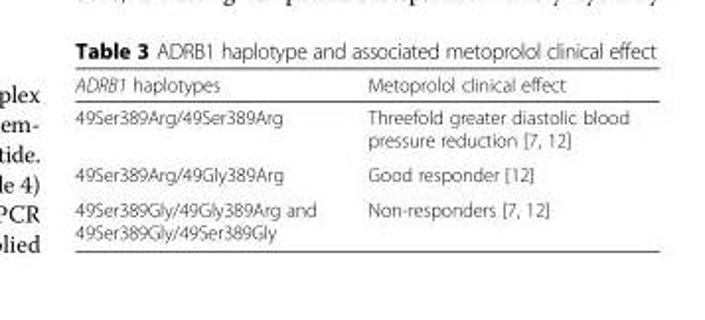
<table><thead><tr><td>ADRB1 haplotypes</td><td>Metoprolol clinical effect</td></tr></thead><tbody><tr><td>49Ser389Arg/49Ser389Arg</td><td>Threefold greater diastolic blood pressure reduction [7, 12]</td></tr><tr><td>49Ser389Arg/49Gly389Arg</td><td>Good responder [12]</td></tr><tr><td>49Ser389Gly/49Gly389Arg and 49Ser389Gly/49Ser389Gly</td><td>Non-responders [7, 12]</td></tr></tbody></table>